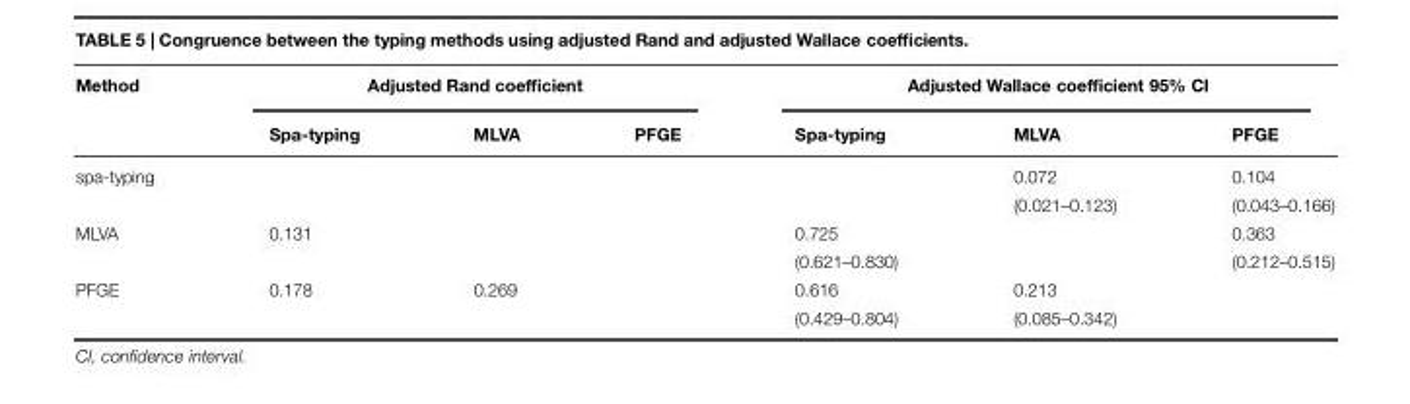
<table><thead><tr><td rowspan="2">Method</td><td colspan="3">Adjusted Rand coefficient</td><td colspan="3">Adjusted Wallace coefficient 95% CI</td></tr><tr><td>Spa-typing</td><td>MLVA</td><td>PFGE</td><td>Spa-typing</td><td>MLVA</td><td>PFGE</td></tr></thead><tbody><tr><td rowspan="2">spa-typing</td><td></td><td></td><td></td><td></td><td>0.072</td><td>0.104</td></tr><tr><td></td><td></td><td></td><td></td><td>(0.021–0.123)</td><td>(0.043–0.166)</td></tr><tr><td rowspan="2">MLVA</td><td>0.131</td><td></td><td></td><td>0.725</td><td></td><td>0.363</td></tr><tr><td></td><td></td><td></td><td>(0.621–0.830)</td><td></td><td>(0.212–0.515)</td></tr><tr><td rowspan="2">PFGE</td><td>0.178</td><td>0.269</td><td></td><td>0.616</td><td>0.213</td><td></td></tr><tr><td></td><td></td><td></td><td>(0.429–0.804)</td><td>(0.085–0.342)</td><td></td></tr></tbody></table>